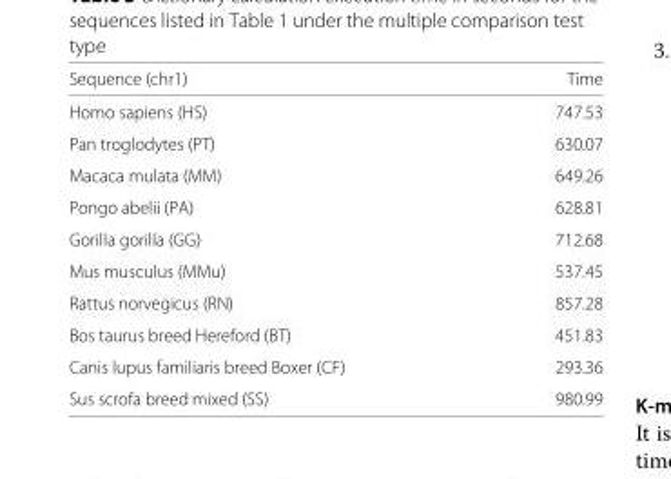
<table><thead><tr><td>Sequence (chr1)</td><td>Time</td></tr></thead><tbody><tr><td>Homo sapiens (HS)</td><td>747.53</td></tr><tr><td>Pan troglodytes (PT)</td><td>630.07</td></tr><tr><td>Macaca mulata (MM)</td><td>649.26</td></tr><tr><td>Pongo abelii (PA)</td><td>628.81</td></tr><tr><td>Gorilla gorilla (GG)</td><td>712.68</td></tr><tr><td>Mus musculus (MMu)</td><td>537.45</td></tr><tr><td>Rattus norvegicus (RN)</td><td>857.28</td></tr><tr><td>Bos taurus breed Hereford (BT)</td><td>451.83</td></tr><tr><td>Canis lupus familiaris breed Boxer (CF)</td><td>293.36</td></tr><tr><td>Sus scrofa breed mixed (SS)</td><td>980.99</td></tr></tbody></table>